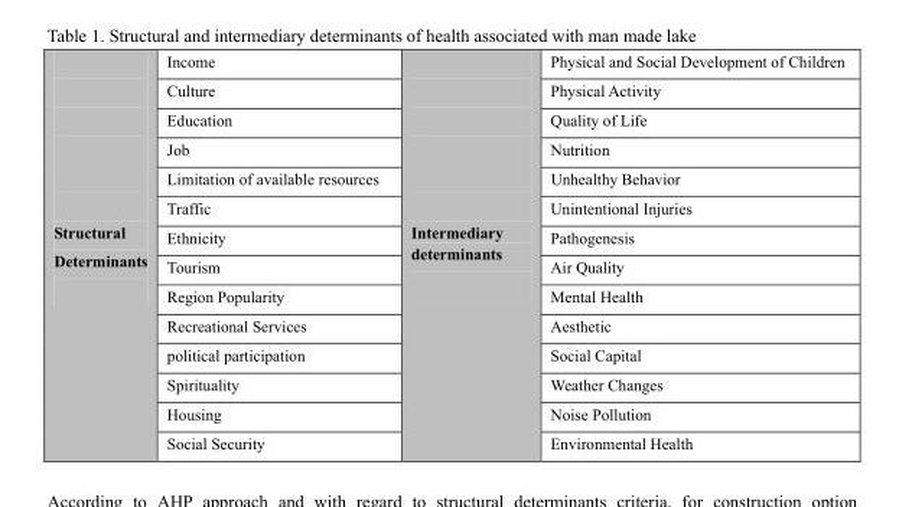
<table><tbody><tr><td rowspan="14">Structural Determinants</td><td>Income</td><td rowspan="14">Intermediary determinants</td><td>Physical and Social Development of Children</td></tr><tr><td>Culture</td><td>Physical Activity</td></tr><tr><td>Education</td><td>Quality of Life</td></tr><tr><td>Job</td><td>Nutrition</td></tr><tr><td>Limitation of available resources</td><td>Unhealthy Behavior</td></tr><tr><td>Traffic</td><td>Unintentional Injuries</td></tr><tr><td>Ethnicity</td><td>Pathogenesis</td></tr><tr><td>Tourism</td><td>Air Quality</td></tr><tr><td>Region Popularity</td><td>Mental Health</td></tr><tr><td>Recreational Services</td><td>Aesthetic</td></tr><tr><td>political participation</td><td>Social Capital</td></tr><tr><td>Spirituality</td><td>Weather Changes</td></tr><tr><td>Housing</td><td>Noise Pollution</td></tr><tr><td>Social Security</td><td>Environmental Health</td></tr></tbody></table>